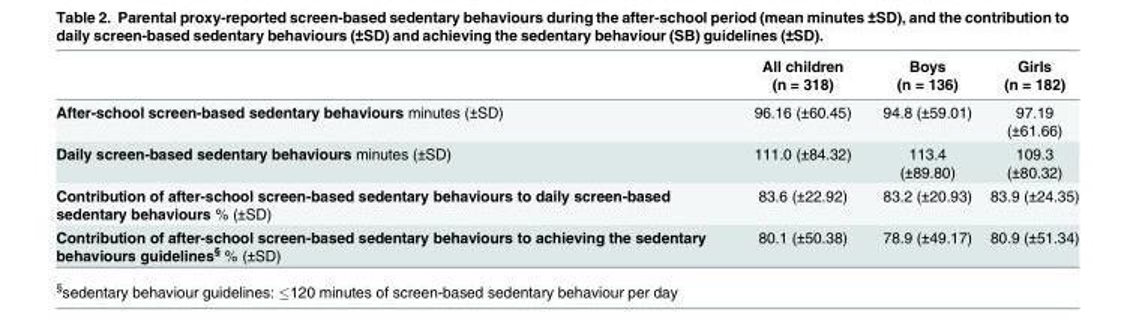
<table><thead><tr><td></td><td>All children (n = 318)</td><td>Boys (n = 136)</td><td>Girls (n = 182)</td></tr></thead><tbody><tr><td>After-school screen-based sedentary behaviours minutes (±SD)</td><td>96.16 (±60.45)</td><td>94.8 (±59.01)</td><td>97.19 (±61.66)</td></tr><tr><td>Daily screen-based sedentary behaviours minutes (±SD)</td><td>111.0 (±84.32)</td><td>113.4 (±89.80)</td><td>109.3 (±80.32)</td></tr><tr><td>Contribution of after-school screen-based sedentary behaviours to daily screen-based sedentary behaviours % (±SD)</td><td>83.6 (±22.92)</td><td>83.2 (±20.93)</td><td>83.9 (±24.35)</td></tr><tr><td>Contribution of after-school screen-based sedentary behaviours to achieving the sedentary behaviours guidelines<sup>§</sup> % (±SD)</td><td>80.1 (±50.38)</td><td>78.9 (±49.17)</td><td>80.9 (±51.34)</td></tr></tbody></table>